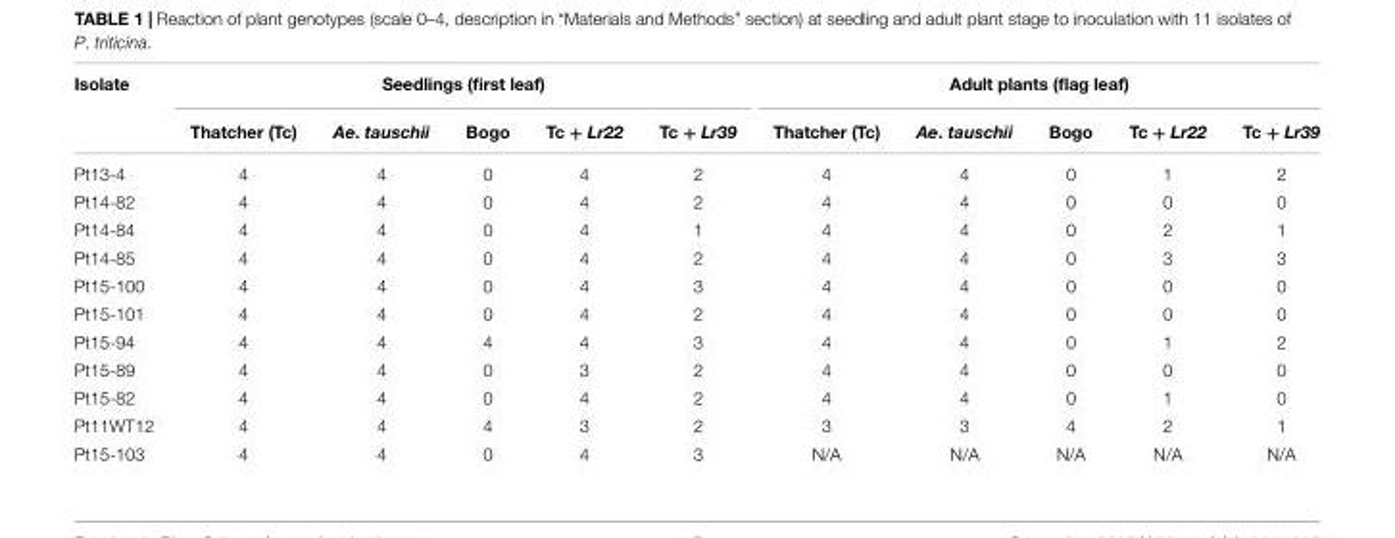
<table><thead><tr><td rowspan="2">Isolate</td><td colspan="5">Seedlings (first leaf)</td><td colspan="5">Adult plants (flag leaf)</td></tr><tr><td>Thatcher (Tc)</td><td>Ae. tauschii</td><td>Bogo</td><td>Tc + Lr22</td><td>Tc + Lr39</td><td>Thatcher (Tc)</td><td>Ae. tauschii</td><td>Bogo</td><td>Tc + Lr22</td><td>Tc + Lr39</td></tr></thead><tbody><tr><td>Pt13-4</td><td>4</td><td>4</td><td>0</td><td>4</td><td>2</td><td>4</td><td>4</td><td>0</td><td>1</td><td>2</td></tr><tr><td>Pt14-82</td><td>4</td><td>4</td><td>0</td><td>4</td><td>2</td><td>4</td><td>4</td><td>0</td><td>0</td><td>0</td></tr><tr><td>Pt14-84</td><td>4</td><td>4</td><td>0</td><td>4</td><td>1</td><td>4</td><td>4</td><td>0</td><td>2</td><td>1</td></tr><tr><td>Pt14-85</td><td>4</td><td>4</td><td>0</td><td>4</td><td>2</td><td>4</td><td>4</td><td>0</td><td>3</td><td>3</td></tr><tr><td>Pt15-100</td><td>4</td><td>4</td><td>0</td><td>4</td><td>3</td><td>4</td><td>4</td><td>0</td><td>0</td><td>0</td></tr><tr><td>Pt15-101</td><td>4</td><td>4</td><td>0</td><td>4</td><td>2</td><td>4</td><td>4</td><td>0</td><td>0</td><td>0</td></tr><tr><td>Pt15-94</td><td>4</td><td>4</td><td>4</td><td>4</td><td>3</td><td>4</td><td>4</td><td>0</td><td>1</td><td>2</td></tr><tr><td>Pt15-89</td><td>4</td><td>4</td><td>0</td><td>3</td><td>2</td><td>4</td><td>4</td><td>0</td><td>0</td><td>0</td></tr><tr><td>Pt15-82</td><td>4</td><td>4</td><td>0</td><td>4</td><td>2</td><td>4</td><td>4</td><td>0</td><td>1</td><td>0</td></tr><tr><td>Pt11WT12</td><td>4</td><td>4</td><td>4</td><td>3</td><td>2</td><td>3</td><td>3</td><td>4</td><td>2</td><td>1</td></tr><tr><td>Pt15-103</td><td>4</td><td>4</td><td>0</td><td>4</td><td>3</td><td>N/A</td><td>N/A</td><td>N/A</td><td>N/A</td><td>N/A</td></tr></tbody></table>